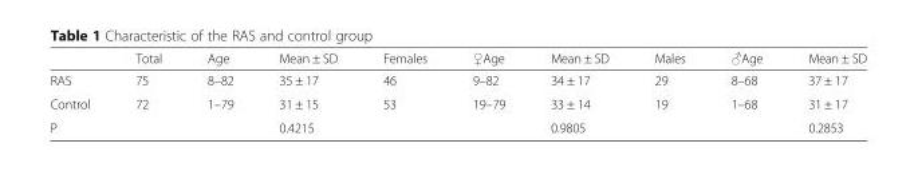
<table><thead><tr><td></td><td>Total</td><td>Age</td><td>Mean ± SD</td><td>Females</td><td>♀Age</td><td>Mean ± SD</td><td>Males</td><td>♂Age</td><td>Mean ± SD</td></tr></thead><tbody><tr><td>RAS</td><td>75</td><td>8–82</td><td>35 ± 17</td><td>46</td><td>9–82</td><td>34 ± 17</td><td>29</td><td>8–68</td><td>37 ± 17</td></tr><tr><td>Control</td><td>72</td><td>1–79</td><td>31 ± 15</td><td>53</td><td>19–79</td><td>33 ± 14</td><td>19</td><td>1–68</td><td>31 ± 17</td></tr><tr><td>P</td><td></td><td></td><td>0.4215</td><td></td><td></td><td>0.9805</td><td></td><td></td><td>0.2853</td></tr></tbody></table>